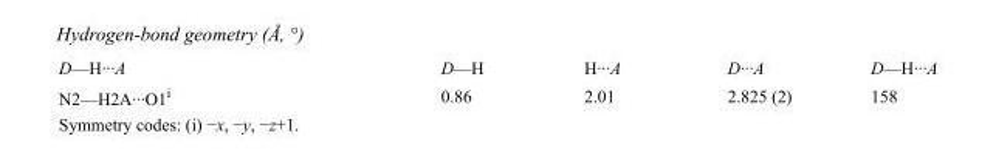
<table><tbody><tr><td>D—H···A</td><td>D—H</td><td>H···A</td><td>D···A</td><td>D—H···A</td></tr><tr><td>N2—H2A···O1<sup>i</sup></td><td>0.86</td><td>2.01</td><td>2.825 (2)</td><td>158</td></tr></tbody></table>